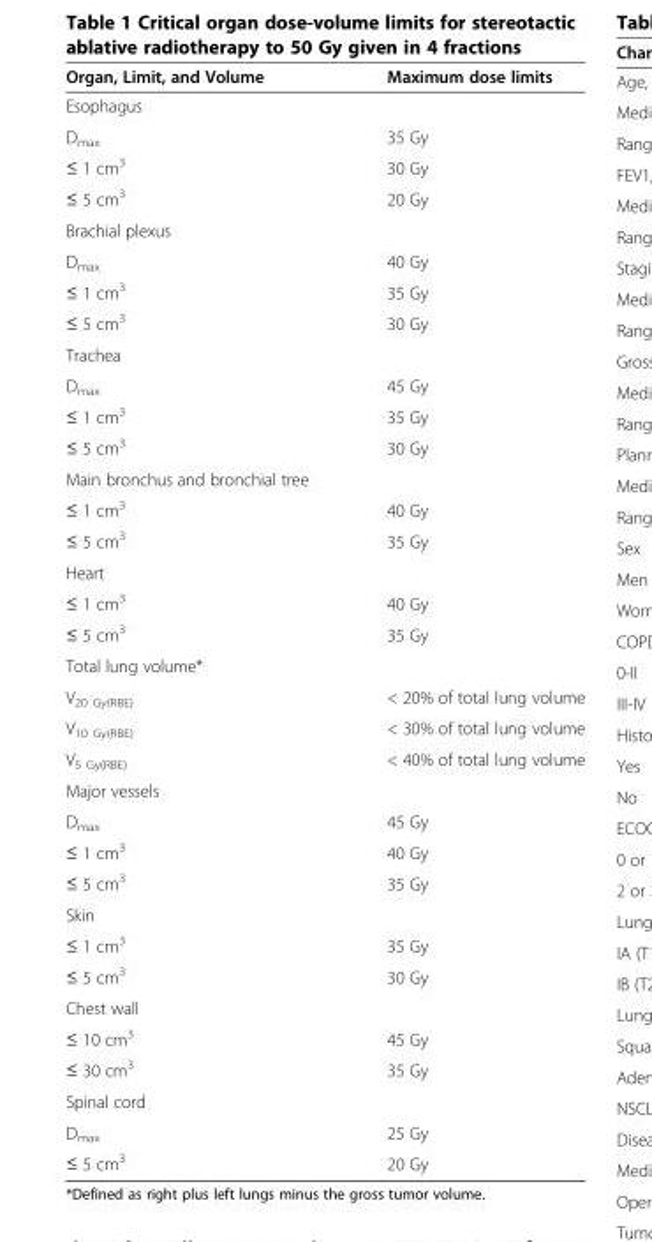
<table><thead><tr><td>Organ, Limit, and Volume</td><td>Maximum dose limits</td></tr></thead><tbody><tr><td colspan="2">Esophagus</td></tr><tr><td>D<sub>max</sub></td><td>35 Gy</td></tr><tr><td>≤ 1 cm<sup>3</sup></td><td>30 Gy</td></tr><tr><td>≤ 5 cm<sup>3</sup></td><td>20 Gy</td></tr><tr><td colspan="2">Brachial plexus</td></tr><tr><td>D<sub>max</sub></td><td>40 Gy</td></tr><tr><td>≤ 1 cm<sup>3</sup></td><td>35 Gy</td></tr><tr><td>≤ 5 cm<sup>3</sup></td><td>30 Gy</td></tr><tr><td colspan="2">Trachea</td></tr><tr><td>D<sub>max</sub></td><td>45 Gy</td></tr><tr><td>≤ 1 cm<sup>3</sup></td><td>35 Gy</td></tr><tr><td>≤ 5 cm<sup>3</sup></td><td>30 Gy</td></tr><tr><td colspan="2">Main bronchus and bronchial tree</td></tr><tr><td>≤ 1 cm<sup>3</sup></td><td>40 Gy</td></tr><tr><td>≤ 5 cm<sup>3</sup></td><td>35 Gy</td></tr><tr><td colspan="2">Heart</td></tr><tr><td>≤ 1 cm<sup>3</sup></td><td>40 Gy</td></tr><tr><td>≤ 5 cm<sup>3</sup></td><td>35 Gy</td></tr><tr><td colspan="2">Total lung volume*</td></tr><tr><td>V<sub>20 Gy(RBE)</sub></td><td>&lt; 20% of total lung volume</td></tr><tr><td>V<sub>10 Gy(RBE)</sub></td><td>&lt; 30% of total lung volume</td></tr><tr><td>V<sub>5 Gy(RBE)</sub></td><td>&lt; 40% of total lung volume</td></tr><tr><td colspan="2">Major vessels</td></tr><tr><td>D<sub>max</sub></td><td>45 Gy</td></tr><tr><td>≤ 1 cm<sup>3</sup></td><td>40 Gy</td></tr><tr><td>≤ 5 cm<sup>3</sup></td><td>35 Gy</td></tr><tr><td colspan="2">Skin</td></tr><tr><td>≤ 1 cm<sup>3</sup></td><td>35 Gy</td></tr><tr><td>≤ 5 cm<sup>3</sup></td><td>30 Gy</td></tr><tr><td colspan="2">Chest wall</td></tr><tr><td>≤ 10 cm<sup>3</sup></td><td>45 Gy</td></tr><tr><td>≤ 30 cm<sup>3</sup></td><td>35 Gy</td></tr><tr><td colspan="2">Spinal cord</td></tr><tr><td>D<sub>max</sub></td><td>25 Gy</td></tr><tr><td>≤ 5 cm<sup>3</sup></td><td>20 Gy</td></tr></tbody></table>